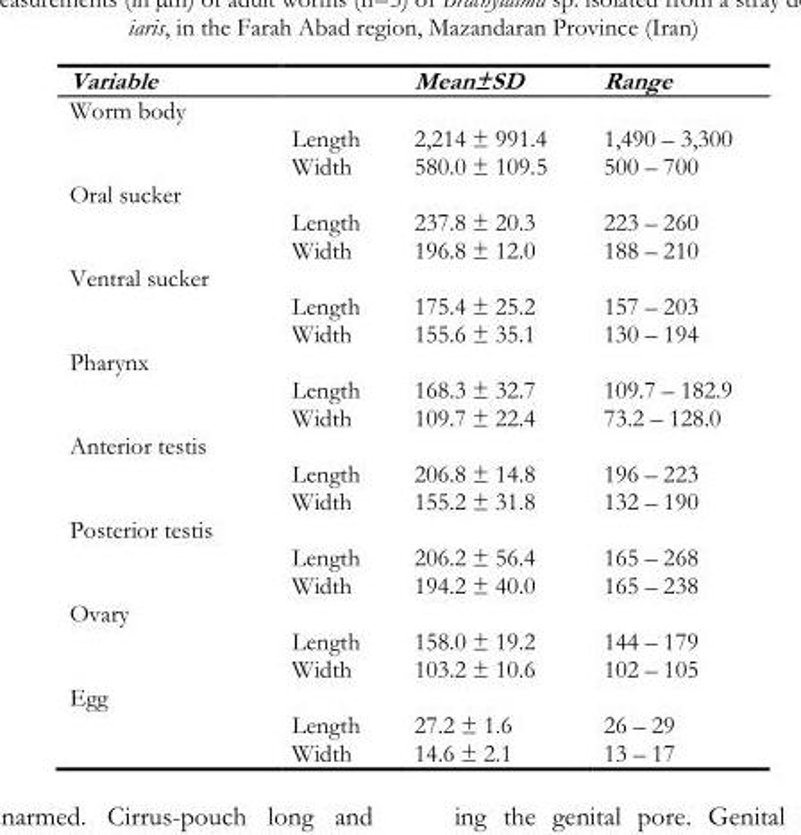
<table><thead><tr><td>Variable</td><td></td><td>Mean±SD</td><td>Range</td></tr></thead><tbody><tr><td colspan="4">Worm body</td></tr><tr><td></td><td>Length</td><td>2,214 ± 991.4</td><td>1,490 – 3,300</td></tr><tr><td></td><td>Width</td><td>580.0 ± 109.5</td><td>500 – 700</td></tr><tr><td colspan="4">Oral sucker</td></tr><tr><td></td><td>Length</td><td>237.8 ± 20.3</td><td>223 – 260</td></tr><tr><td></td><td>Width</td><td>196.8 ± 12.0</td><td>188 – 210</td></tr><tr><td colspan="4">Ventral sucker</td></tr><tr><td></td><td>Length</td><td>175.4 ± 25.2</td><td>157 – 203</td></tr><tr><td></td><td>Width</td><td>155.6 ± 35.1</td><td>130 – 194</td></tr><tr><td colspan="4">Pharynx</td></tr><tr><td></td><td>Length</td><td>168.3 ± 32.7</td><td>109.7 – 182.9</td></tr><tr><td></td><td>Width</td><td>109.7 ± 22.4</td><td>73.2 – 128.0</td></tr><tr><td colspan="4">Anterior testis</td></tr><tr><td></td><td>Length</td><td>206.8 ± 14.8</td><td>196 – 223</td></tr><tr><td></td><td>Width</td><td>155.2 ± 31.8</td><td>132 – 190</td></tr><tr><td colspan="4">Posterior testis</td></tr><tr><td></td><td>Length</td><td>206.2 ± 56.4</td><td>165 – 268</td></tr><tr><td></td><td>Width</td><td>194.2 ± 40.0</td><td>165 – 238</td></tr><tr><td colspan="4">Ovary</td></tr><tr><td></td><td>Length</td><td>158.0 ± 19.2</td><td>144 – 179</td></tr><tr><td></td><td>Width</td><td>103.2 ± 10.6</td><td>102 – 105</td></tr><tr><td colspan="4">Egg</td></tr><tr><td></td><td>Length</td><td>27.2 ± 1.6</td><td>26 – 29</td></tr><tr><td></td><td>Width</td><td>14.6 ± 2.1</td><td>13 – 17</td></tr></tbody></table>